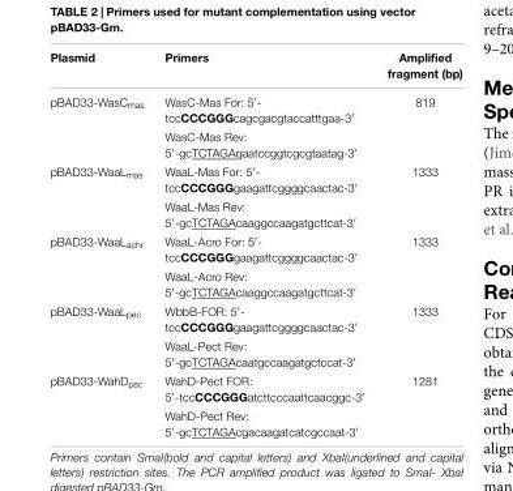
<table><thead><tr><td>Plasmid</td><td>Primers</td><td>Amplified fragment (bp)</td></tr></thead><tbody><tr><td rowspan="2">pBAD33-WasC<sub>mas</sub></td><td>WasC-Mas For: 5′- tccCCCGGGcagcgacgtaccatttgaa-3′</td><td>819</td></tr><tr><td>WasC-Mas Rev: 5′-gcTCTAGAgaatccggtcgcgtaatag-3′</td><td></td></tr><tr><td rowspan="2">pBAD33-WaaL<sub>mas</sub></td><td>WaaL-Mas For: 5′- tccCCCGGGgaagattcggggcaactac-3′</td><td>1333</td></tr><tr><td>WaaL-Mas Rev: 5′-gcTCTAGAcaaggccaagatgcttcat-3′</td><td></td></tr><tr><td rowspan="2">pBAD33-WaaL<sub>achr</sub></td><td>WaaL-Acro For: 5′- tccCCCGGGgaagattcggggcaactac-3′</td><td>1333</td></tr><tr><td>WaaL-Acro Rev: 5′-gcTCTAGAcaaggccaagatgcttcat-3′</td><td></td></tr><tr><td rowspan="2">pBAD33-WaaL<sub>pec</sub></td><td>WbbB-FOR: 5′- tccCCCGGGgaagattcggggcaactac-3′</td><td>1333</td></tr><tr><td>WaaL-Pect Rev: 5′-gcTCTAGAcaatgccaagatgctccat-3′</td><td></td></tr><tr><td rowspan="2">pBAD33-WahD<sub>pec</sub></td><td>WahD-Pect FOR: 5′-tccCCCGGGatcttcccaattcaacggc-3′</td><td>1281</td></tr><tr><td>WahD-Pect Rev: 5′-gcTCTAGAcgacaagatcatcgccaat-3′</td><td></td></tr></tbody></table>